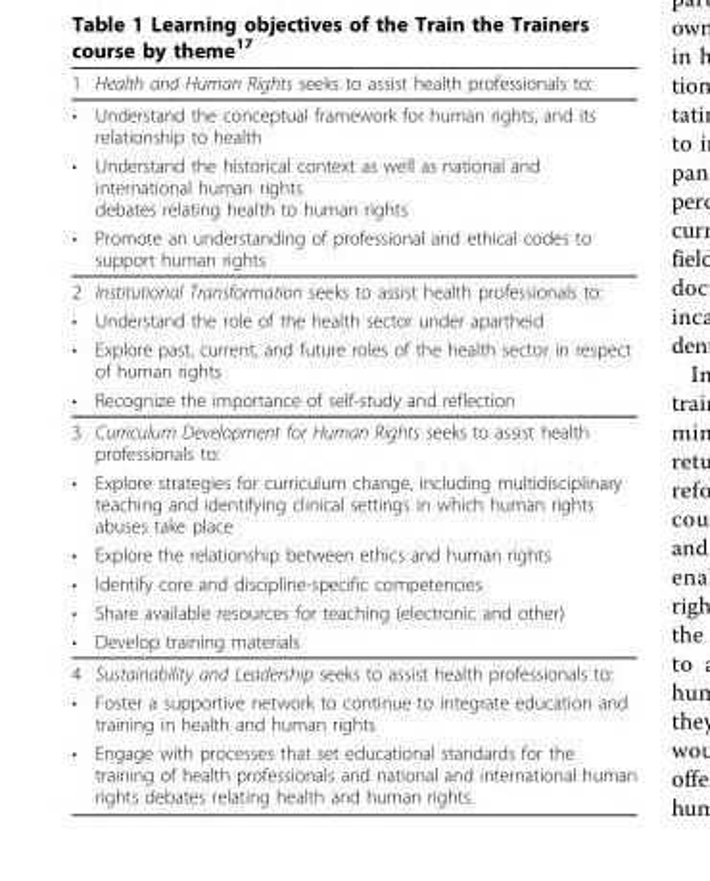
<table><thead><tr><td>1</td><td>Health and Human Rights seeks to assist health professionals to:</td></tr></thead><tbody><tr><td>•</td><td>Understand the conceptual framework for human rights, and its relationship to health</td></tr><tr><td>•</td><td>Understand the historical context as well as national and international human rights debates relating health to human rights</td></tr><tr><td>•</td><td>Promote an understanding of professional and ethical codes to support human rights</td></tr><tr><td>2</td><td>Institutional Transformation seeks to assist health professionals to:</td></tr><tr><td>•</td><td>Understand the role of the health sector under apartheid</td></tr><tr><td>•</td><td>Explore past, current, and future roles of the health sector in respect of human rights</td></tr><tr><td>•</td><td>Recognize the importance of self-study and reflection</td></tr><tr><td>3</td><td>Curriculum Development for Human Rights seeks to assist health professionals to:</td></tr><tr><td>•</td><td>Explore strategies for curriculum change, including multidisciplinary teaching and identifying clinical settings in which human rights abuses take place</td></tr><tr><td>•</td><td>Explore the relationship between ethics and human rights</td></tr><tr><td>•</td><td>Identify core and discipline-specific competencies</td></tr><tr><td>•</td><td>Share available resources for teaching (electronic and other)</td></tr><tr><td>•</td><td>Develop training materials</td></tr><tr><td>4</td><td>Sustainability and Leadership seeks to assist health professionals to:</td></tr><tr><td>•</td><td>Foster a supportive network to continue to integrate education and training in health and human rights</td></tr><tr><td>•</td><td>Engage with processes that set educational standards for the training of health professionals and national and international human rights debates relating health and human rights.</td></tr></tbody></table>